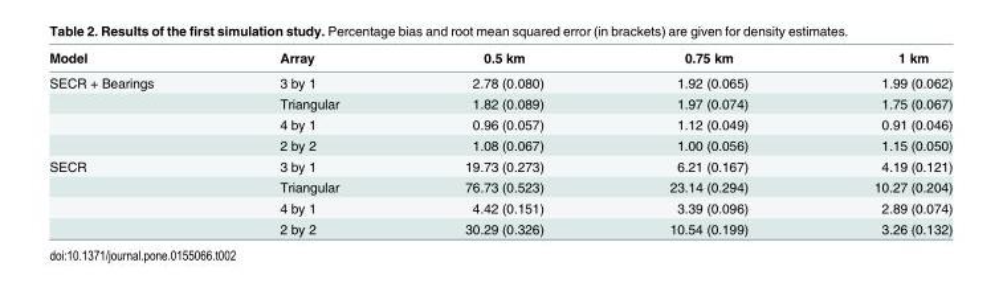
<table><thead><tr><td>Model</td><td>Array</td><td>0.5 km</td><td>0.75 km</td><td>1 km</td></tr></thead><tbody><tr><td rowspan="4">SECR + Bearings</td><td>3 by 1</td><td>2.78 (0.080)</td><td>1.92 (0.065)</td><td>1.99 (0.062)</td></tr><tr><td>Triangular</td><td>1.82 (0.089)</td><td>1.97 (0.074)</td><td>1.75 (0.067)</td></tr><tr><td>4 by 1</td><td>0.96 (0.057)</td><td>1.12 (0.049)</td><td>0.91 (0.046)</td></tr><tr><td>2 by 2</td><td>1.08 (0.067)</td><td>1.00 (0.056)</td><td>1.15 (0.050)</td></tr><tr><td rowspan="4">SECR</td><td>3 by 1</td><td>19.73 (0.273)</td><td>6.21 (0.167)</td><td>4.19 (0.121)</td></tr><tr><td>Triangular</td><td>76.73 (0.523)</td><td>23.14 (0.294)</td><td>10.27 (0.204)</td></tr><tr><td>4 by 1</td><td>4.42 (0.151)</td><td>3.39 (0.096)</td><td>2.89 (0.074)</td></tr><tr><td>2 by 2</td><td>30.29 (0.326)</td><td>10.54 (0.199)</td><td>3.26 (0.132)</td></tr></tbody></table>